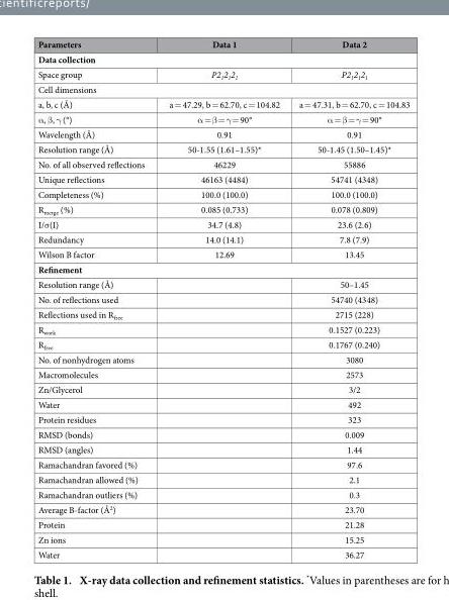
<table><thead><tr><td>Parameters</td><td>Data 1</td><td>Data 2</td></tr></thead><tbody><tr><td colspan="3">Data collection</td></tr><tr><td>Space group</td><td>P2<sub>1</sub>2<sub>1</sub>2<sub>1</sub></td><td>P2<sub>1</sub>2<sub>1</sub>2<sub>1</sub></td></tr><tr><td colspan="3">Cell dimensions</td></tr><tr><td>a, b, c (Å)</td><td>a = 47.29, b = 62.70, c = 104.82</td><td>a = 47.31, b = 62.70, c = 104.83</td></tr><tr><td>α , β , γ (°)</td><td>α = β = γ = 90°</td><td>α = β = γ = 90°</td></tr><tr><td>Wavelength (Å)</td><td>0.91</td><td>0.91</td></tr><tr><td>Resolution range (Å)</td><td>50-1.55 (1.61–1.55)*</td><td>50-1.45 (1.50–1.45)*</td></tr><tr><td>No. of all observed reflections</td><td>46229</td><td>55886</td></tr><tr><td>Unique reflections</td><td>46163 (4484)</td><td>54741 (4348)</td></tr><tr><td>Completeness (%)</td><td>100.0 (100.0)</td><td>100.0 (100.0)</td></tr><tr><td>R<sub>merge</sub> (%)</td><td>0.085 (0.733)</td><td>0.078 (0.809)</td></tr><tr><td>I/σ (I)</td><td>34.7 (4.8)</td><td>23.6 (2.6)</td></tr><tr><td>Redundancy</td><td>14.0 (14.1)</td><td>7.8 (7.9)</td></tr><tr><td>Wilson B factor</td><td>12.69</td><td>13.45</td></tr><tr><td colspan="3">Refinement</td></tr><tr><td>Resolution range (Å)</td><td></td><td>50–1.45</td></tr><tr><td>No. of reflections used</td><td></td><td>54740 (4348)</td></tr><tr><td>Reflections used in R<sub>free</sub></td><td></td><td>2715 (228)</td></tr><tr><td>R<sub>work</sub></td><td></td><td>0.1527 (0.223)</td></tr><tr><td>R<sub>free</sub></td><td></td><td>0.1767 (0.240)</td></tr><tr><td>No. of nonhydrogen atoms</td><td></td><td>3080</td></tr><tr><td>Macromolecules</td><td></td><td>2573</td></tr><tr><td>Zn/Glycerol</td><td></td><td>3/2</td></tr><tr><td>Water</td><td></td><td>492</td></tr><tr><td>Protein residues</td><td></td><td>323</td></tr><tr><td>RMSD (bonds)</td><td></td><td>0.009</td></tr><tr><td>RMSD (angles)</td><td></td><td>1.44</td></tr><tr><td>Ramachandran favored (%)</td><td></td><td>97.6</td></tr><tr><td>Ramachandran allowed (%)</td><td></td><td>2.1</td></tr><tr><td>Ramachandran outliers (%)</td><td></td><td>0.3</td></tr><tr><td>Average B-factor (Å<sup>2</sup>)</td><td></td><td>23.70</td></tr><tr><td>Protein</td><td></td><td>21.28</td></tr><tr><td>Zn ions</td><td></td><td>15.25</td></tr><tr><td>Water</td><td></td><td>36.27</td></tr></tbody></table>